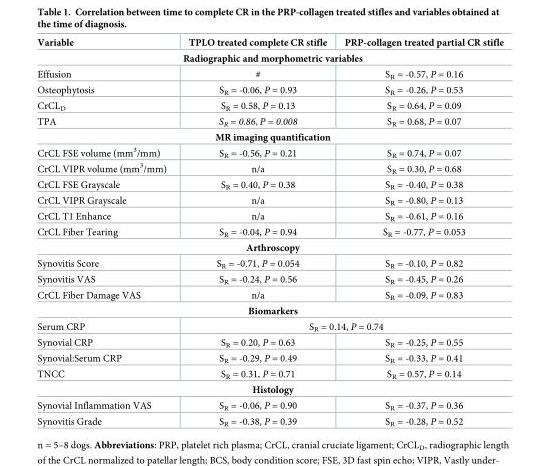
<table><thead><tr><td>Variable</td><td>TPLO treated complete CR stifle</td><td>PRP-collagen treated partial CR stifle</td></tr></thead><tbody><tr><td colspan="3">Radiographic and morphometric variables</td></tr><tr><td>Effusion</td><td>#</td><td>S<sub>R</sub> = -0.57, P = 0.16</td></tr><tr><td>Osteophytosis</td><td>S<sub>R</sub> = -0.06, P = 0.93</td><td>S<sub>R</sub> = -0.26, P = 0.53</td></tr><tr><td>CrCL<sub>D</sub></td><td>S<sub>R</sub> = 0.58, P = 0.13</td><td>S<sub>R</sub> = 0.64, P = 0.09</td></tr><tr><td>TPA</td><td>S<sub>R</sub> = 0.86, P = 0.008</td><td>S<sub>R</sub> = 0.68, P = 0.07</td></tr><tr><td colspan="3">MR imaging quantification</td></tr><tr><td>CrCL FSE volume (mm<sup>3</sup>/mm)</td><td>S<sub>R</sub> = -0.56, P = 0.21</td><td>S<sub>R</sub> = 0.74, P = 0.07</td></tr><tr><td>CrCL VIPR volume (mm<sup>3</sup>/mm)</td><td>n/a</td><td>S<sub>R</sub> = 0.30, P = 0.68</td></tr><tr><td>CrCL FSE Grayscale</td><td>S<sub>R</sub> = 0.40, P = 0.38</td><td>S<sub>R</sub> = -0.40, P = 0.38</td></tr><tr><td>CrCL VIPR Grayscale</td><td>n/a</td><td>S<sub>R</sub> = -0.80, P = 0.13</td></tr><tr><td>CrCL T1 Enhance</td><td>n/a</td><td>S<sub>R</sub> = -0.61, P = 0.16</td></tr><tr><td>CrCL Fiber Tearing</td><td>S<sub>R</sub> = -0.04, P = 0.94</td><td>S<sub>R</sub> = -0.77, P = 0.053</td></tr><tr><td colspan="3">Arthroscopy</td></tr><tr><td>Synovitis Score</td><td>S<sub>R</sub> = -0.71, P = 0.054</td><td>S<sub>R</sub> = -0.10, P = 0.82</td></tr><tr><td>Synovitis VAS</td><td>S<sub>R</sub> = -0.24, P = 0.56</td><td>S<sub>R</sub> = -0.45, P = 0.26</td></tr><tr><td>CrCL Fiber Damage VAS</td><td>n/a</td><td>S<sub>R</sub> = -0.09, P = 0.83</td></tr><tr><td colspan="3">Biomarkers</td></tr><tr><td>Serum CRP</td><td colspan="2">S<sub>R</sub> = 0.14, P = 0.74</td></tr><tr><td>Synovial CRP</td><td>S<sub>R</sub> = 0.20, P = 0.63</td><td>S<sub>R</sub> = -0.25, P = 0.55</td></tr><tr><td>Synovial:Serum CRP</td><td>S<sub>R</sub> = -0.29, P = 0.49</td><td>S<sub>R</sub> = -0.33, P = 0.41</td></tr><tr><td>TNCC</td><td>S<sub>R</sub> = 0.31, P = 0.71</td><td>S<sub>R</sub> = 0.57, P = 0.14</td></tr><tr><td colspan="3">Histology</td></tr><tr><td>Synovial Inflammation VAS</td><td>S<sub>R</sub> = -0.06, P = 0.90</td><td>S<sub>R</sub> = -0.37, P = 0.36</td></tr><tr><td>Synovitis Grade</td><td>S<sub>R</sub> = -0.38, P = 0.39</td><td>S<sub>R</sub> = -0.28, P = 0.52</td></tr></tbody></table>